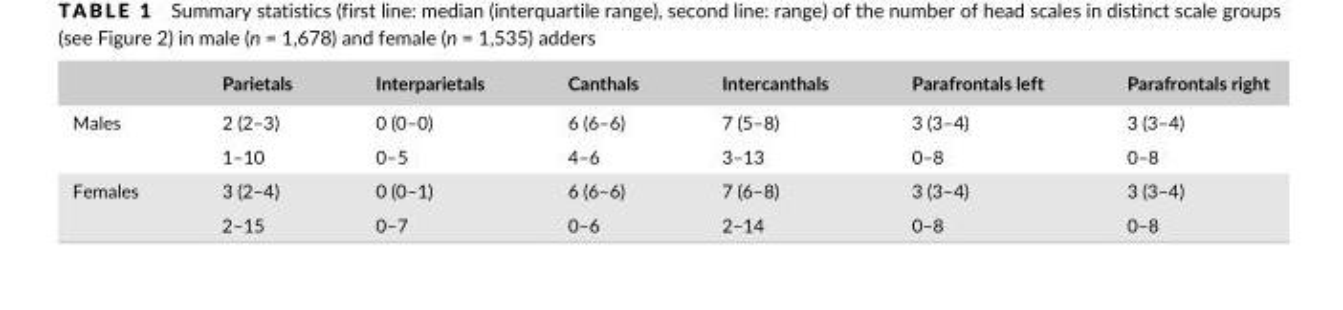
<table><thead><tr><td></td><td>Parietals</td><td>Interparietals</td><td>Canthals</td><td>Intercanthals</td><td>Parafrontals left</td><td>Parafrontals right</td></tr></thead><tbody><tr><td rowspan="2">Males</td><td>2 (2–3)</td><td>0 (0–0)</td><td>6 (6–6)</td><td>7 (5–8)</td><td>3 (3–4)</td><td>3 (3–4)</td></tr><tr><td>1–10</td><td>0–5</td><td>4–6</td><td>3–13</td><td>0–8</td><td>0–8</td></tr><tr><td rowspan="2">Females</td><td>3 (2–4)</td><td>0 (0–1)</td><td>6 (6–6)</td><td>7 (6–8)</td><td>3 (3–4)</td><td>3 (3–4)</td></tr><tr><td>2–15</td><td>0–7</td><td>0–6</td><td>2–14</td><td>0–8</td><td>0–8</td></tr></tbody></table>